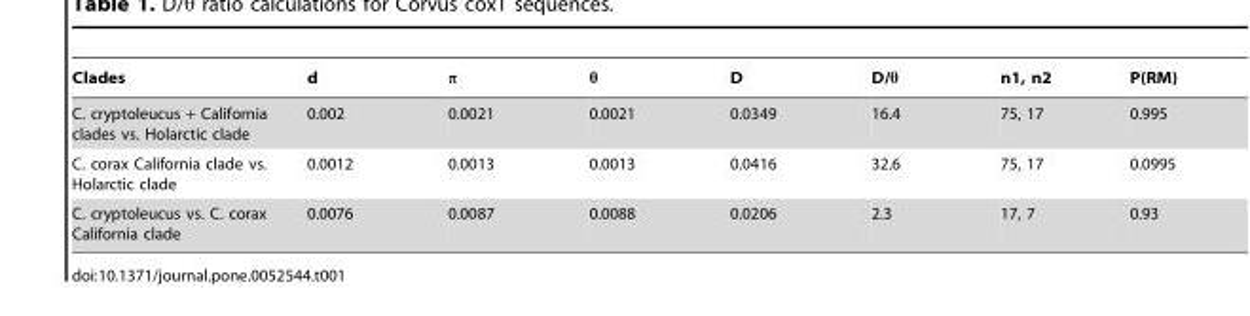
<table><thead><tr><td>Clades</td><td>d</td><td>π</td><td>θ</td><td>D</td><td>D/θ</td><td>n1, n2</td><td>P(RM)</td></tr></thead><tbody><tr><td>C. cryptoleucus + California clades vs. Holarctic clade</td><td>0.002</td><td>0.0021</td><td>0.0021</td><td>0.0349</td><td>16.4</td><td>75, 17</td><td>0.995</td></tr><tr><td>C. corax California clade vs. Holarctic clade</td><td>0.0012</td><td>0.0013</td><td>0.0013</td><td>0.0416</td><td>32.6</td><td>75, 17</td><td>0.0995</td></tr><tr><td>C. cryptoleucus vs. C. corax California clade</td><td>0.0076</td><td>0.0087</td><td>0.0088</td><td>0.0206</td><td>2.3</td><td>17, 7</td><td>0.93</td></tr></tbody></table>